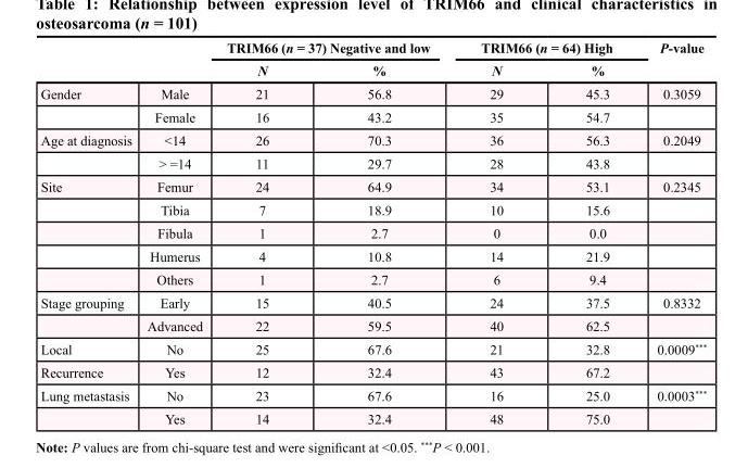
<table><thead><tr><td rowspan="2"></td><td rowspan="2"></td><td colspan="2">TRIM66 (n = 37) Negative and low</td><td colspan="2">TRIM66 (n = 64) High</td><td rowspan="2">P-value</td></tr><tr><td>N</td><td>%</td><td>N</td><td>%</td></tr></thead><tbody><tr><td rowspan="2">Gender</td><td>Male</td><td>21</td><td>56.8</td><td>29</td><td>45.3</td><td>0.3059</td></tr><tr><td>Female</td><td>16</td><td>43.2</td><td>35</td><td>54.7</td><td></td></tr><tr><td rowspan="2">Age at diagnosis</td><td>&lt;14</td><td>26</td><td>70.3</td><td>36</td><td>56.3</td><td>0.2049</td></tr><tr><td>&gt; =14</td><td>11</td><td>29.7</td><td>28</td><td>43.8</td><td></td></tr><tr><td rowspan="5">Site</td><td>Femur</td><td>24</td><td>64.9</td><td>34</td><td>53.1</td><td>0.2345</td></tr><tr><td>Tibia</td><td>7</td><td>18.9</td><td>10</td><td>15.6</td><td></td></tr><tr><td>Fibula</td><td>1</td><td>2.7</td><td>0</td><td>0.0</td><td></td></tr><tr><td>Humerus</td><td>4</td><td>10.8</td><td>14</td><td>21.9</td><td></td></tr><tr><td>Others</td><td>1</td><td>2.7</td><td>6</td><td>9.4</td><td></td></tr><tr><td rowspan="2">Stage grouping</td><td>Early</td><td>15</td><td>40.5</td><td>24</td><td>37.5</td><td>0.8332</td></tr><tr><td>Advanced</td><td>22</td><td>59.5</td><td>40</td><td>62.5</td><td></td></tr><tr><td>Local</td><td>No</td><td>25</td><td>67.6</td><td>21</td><td>32.8</td><td>0.0009***</td></tr><tr><td>Recurrence</td><td>Yes</td><td>12</td><td>32.4</td><td>43</td><td>67.2</td><td></td></tr><tr><td rowspan="2">Lung metastasis</td><td>No</td><td>23</td><td>67.6</td><td>16</td><td>25.0</td><td>0.0003***</td></tr><tr><td>Yes</td><td>14</td><td>32.4</td><td>48</td><td>75.0</td><td></td></tr></tbody></table>